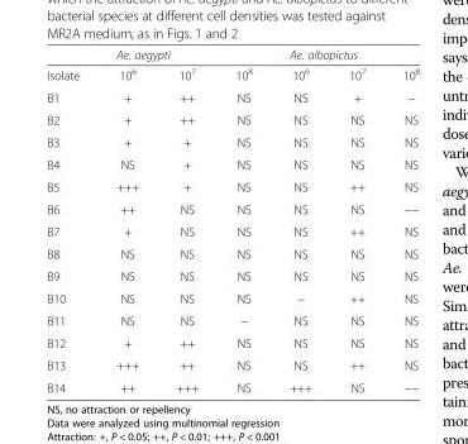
<table><thead><tr><td rowspan="2">Isolate</td><td colspan="3">Ae. aegypti</td><td colspan="3">Ae. albopictus</td></tr><tr><td>10<sup>6</sup></td><td>10<sup>7</sup></td><td>10<sup>8</sup></td><td>10<sup>6</sup></td><td>10<sup>7</sup></td><td>10<sup>8</sup></td></tr></thead><tbody><tr><td>B1</td><td>+</td><td>++</td><td>NS</td><td>NS</td><td>+</td><td>−</td></tr><tr><td>B2</td><td>+</td><td>++</td><td>NS</td><td>NS</td><td>NS</td><td>NS</td></tr><tr><td>B3</td><td>+</td><td>+</td><td>NS</td><td>NS</td><td>NS</td><td>NS</td></tr><tr><td>B4</td><td>NS</td><td>+</td><td>NS</td><td>NS</td><td>NS</td><td>NS</td></tr><tr><td>B5</td><td>+++</td><td>+</td><td>NS</td><td>NS</td><td>++</td><td>NS</td></tr><tr><td>B6</td><td>++</td><td>NS</td><td>NS</td><td>NS</td><td>NS</td><td>−−</td></tr><tr><td>B7</td><td>+</td><td>NS</td><td>NS</td><td>NS</td><td>++</td><td>NS</td></tr><tr><td>B8</td><td>NS</td><td>NS</td><td>NS</td><td>NS</td><td>NS</td><td>NS</td></tr><tr><td>B9</td><td>NS</td><td>NS</td><td>NS</td><td>NS</td><td>NS</td><td>NS</td></tr><tr><td>B10</td><td>NS</td><td>NS</td><td>NS</td><td>−</td><td>++</td><td>NS</td></tr><tr><td>B11</td><td>NS</td><td>NS</td><td>−</td><td>NS</td><td>NS</td><td>NS</td></tr><tr><td>B12</td><td>+</td><td>++</td><td>NS</td><td>NS</td><td>NS</td><td>NS</td></tr><tr><td>B13</td><td>+++</td><td>++</td><td>NS</td><td>NS</td><td>++</td><td>NS</td></tr><tr><td>B14</td><td>++</td><td>+++</td><td>NS</td><td>+++</td><td>NS</td><td>−−</td></tr></tbody></table>